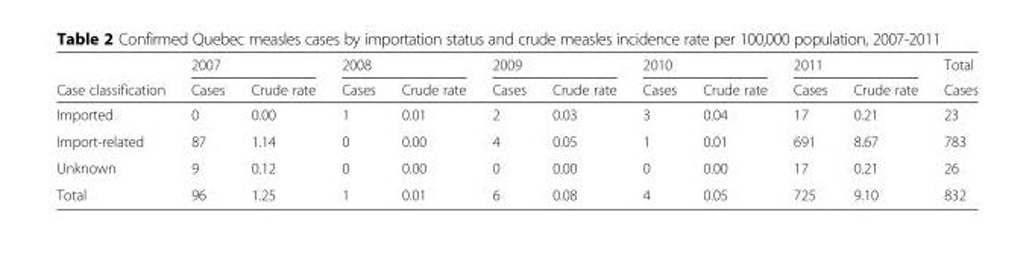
<table><thead><tr><td rowspan="2">Case classification</td><td colspan="2">2007</td><td colspan="2">2008</td><td colspan="2">2009</td><td colspan="2">2010</td><td colspan="2">2011</td><td rowspan="2">Total Cases</td></tr><tr><td>Cases</td><td>Crude rate</td><td>Cases</td><td>Crude rate</td><td>Cases</td><td>Crude rate</td><td>Cases</td><td>Crude rate</td><td>Cases</td><td>Crude rate</td></tr></thead><tbody><tr><td>Imported</td><td>0</td><td>0.00</td><td>1</td><td>0.01</td><td>2</td><td>0.03</td><td>3</td><td>0.04</td><td>17</td><td>0.21</td><td>23</td></tr><tr><td>Import-related</td><td>87</td><td>1.14</td><td>0</td><td>0.00</td><td>4</td><td>0.05</td><td>1</td><td>0.01</td><td>691</td><td>8.67</td><td>783</td></tr><tr><td>Unknown</td><td>9</td><td>0.12</td><td>0</td><td>0.00</td><td>0</td><td>0.00</td><td>0</td><td>0.00</td><td>17</td><td>0.21</td><td>26</td></tr><tr><td>Total</td><td>96</td><td>1.25</td><td>1</td><td>0.01</td><td>6</td><td>0.08</td><td>4</td><td>0.05</td><td>725</td><td>9.10</td><td>832</td></tr></tbody></table>